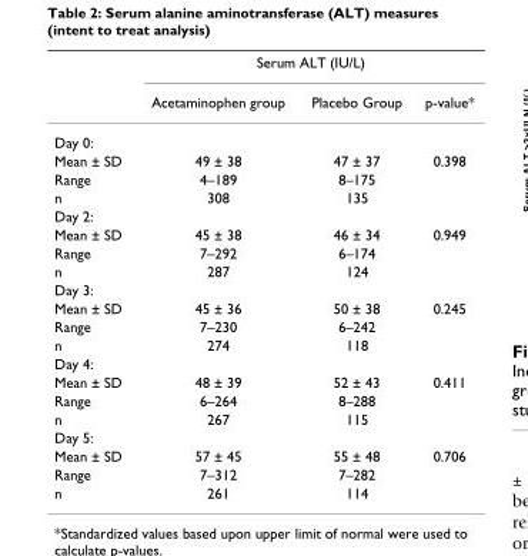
<table><thead><tr><td rowspan="2"></td><td colspan="3">Serum ALT (IU/L)</td></tr><tr><td>Acetaminophen group</td><td>Placebo Group</td><td>p-value*</td></tr></thead><tbody><tr><td colspan="4">Day 0:</td></tr><tr><td>Mean ± SD</td><td>49 ± 38</td><td>47 ± 37</td><td>0.398</td></tr><tr><td>Range</td><td>4–189</td><td>8–175</td><td></td></tr><tr><td>n</td><td>308</td><td>135</td><td></td></tr><tr><td colspan="4">Day 2:</td></tr><tr><td>Mean ± SD</td><td>45 ± 38</td><td>46 ± 34</td><td>0.949</td></tr><tr><td>Range</td><td>7–292</td><td>6–174</td><td></td></tr><tr><td>n</td><td>287</td><td>124</td><td></td></tr><tr><td colspan="4">Day 3:</td></tr><tr><td>Mean ± SD</td><td>45 ± 36</td><td>50 ± 38</td><td>0.245</td></tr><tr><td>Range</td><td>7–230</td><td>6–242</td><td></td></tr><tr><td>n</td><td>274</td><td>118</td><td></td></tr><tr><td colspan="4">Day 4:</td></tr><tr><td>Mean ± SD</td><td>48 ± 39</td><td>52 ± 43</td><td>0.411</td></tr><tr><td>Range</td><td>6–264</td><td>8–288</td><td></td></tr><tr><td>n</td><td>267</td><td>115</td><td></td></tr><tr><td colspan="4">Day 5:</td></tr><tr><td>Mean ± SD</td><td>57 ± 45</td><td>55 ± 48</td><td>0.706</td></tr><tr><td>Range</td><td>7–312</td><td>7–282</td><td></td></tr><tr><td>n</td><td>261</td><td>114</td><td></td></tr></tbody></table>